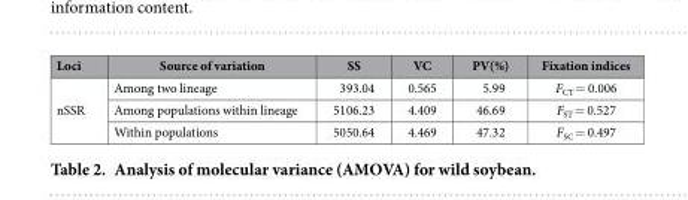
<table><thead><tr><td>Loci</td><td>Source of variation</td><td>SS</td><td>VC</td><td>PV(%)</td><td>Fixation indices</td></tr></thead><tbody><tr><td rowspan="3">nSSR</td><td>Among two lineage</td><td>393.04</td><td>0.565</td><td>5.99</td><td>F<sub>CT</sub> = 0.006</td></tr><tr><td>Among populations within lineage</td><td>5106.23</td><td>4.409</td><td>46.69</td><td>F<sub>ST</sub> = 0.527</td></tr><tr><td>Within populations</td><td>5050.64</td><td>4.469</td><td>47.32</td><td>F<sub>SC</sub> = 0.497</td></tr></tbody></table>